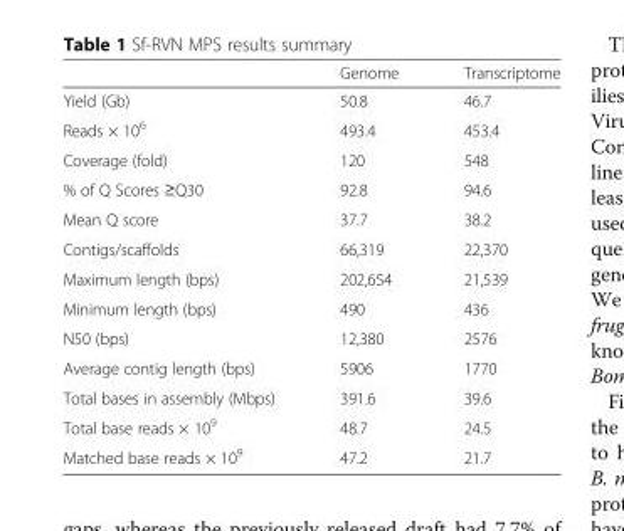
<table><thead><tr><td></td><td>Genome</td><td>Transcriptome</td></tr></thead><tbody><tr><td>Yield (Gb)</td><td>50.8</td><td>46.7</td></tr><tr><td>Reads × 10<sup>6</sup></td><td>493.4</td><td>453.4</td></tr><tr><td>Coverage (fold)</td><td>120</td><td>548</td></tr><tr><td>% of Q Scores ≥Q30</td><td>92.8</td><td>94.6</td></tr><tr><td>Mean Q score</td><td>37.7</td><td>38.2</td></tr><tr><td>Contigs/scaffolds</td><td>66,319</td><td>22,370</td></tr><tr><td>Maximum length (bps)</td><td>202,654</td><td>21,539</td></tr><tr><td>Minimum length (bps)</td><td>490</td><td>436</td></tr><tr><td>N50 (bps)</td><td>12,380</td><td>2576</td></tr><tr><td>Average contig length (bps)</td><td>5906</td><td>1770</td></tr><tr><td>Total bases in assembly (Mbps)</td><td>391.6</td><td>39.6</td></tr><tr><td>Total base reads × 10<sup>9</sup></td><td>48.7</td><td>24.5</td></tr><tr><td>Matched base reads × 10<sup>9</sup></td><td>47.2</td><td>21.7</td></tr></tbody></table>